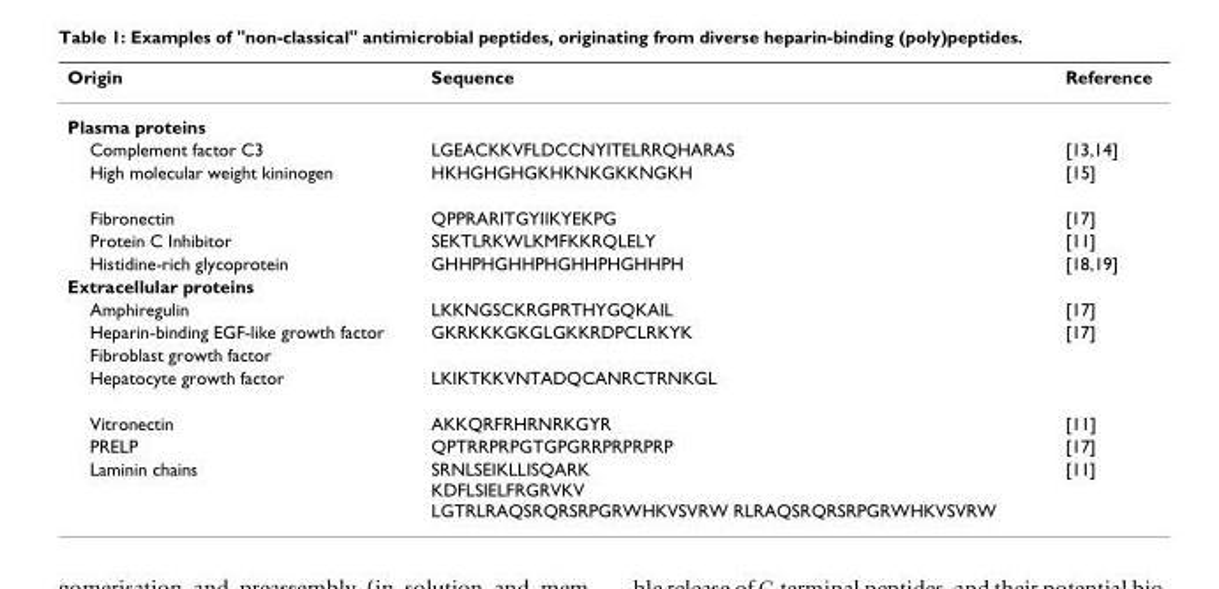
<table><thead><tr><td>Origin</td><td>Sequence</td><td>Reference</td></tr></thead><tbody><tr><td colspan="3">Plasma proteins</td></tr><tr><td>Complement factor C3</td><td>LGEACKKVFLDCCNYITELRRQHARAS</td><td>[13,14]</td></tr><tr><td>High molecular weight kininogen</td><td>HKHGHGHGKHKNKGKKNGKH</td><td>[15]</td></tr><tr><td>Fibronectin</td><td>QPPRARITGYIIKYEKPG</td><td>[17]</td></tr><tr><td>Protein C Inhibitor</td><td>SEKTLRKWLKMFKKRQLELY</td><td>[11]</td></tr><tr><td>Histidine-rich glycoprotein</td><td>GHHPHGHHPHGHHPHGHHPH</td><td>[18,19]</td></tr><tr><td colspan="3">Extracellular proteins</td></tr><tr><td>Amphiregulin</td><td>LKKNGSCKRGPRTHYGQKAIL</td><td>[17]</td></tr><tr><td>Heparin-binding EGF-like growth factor</td><td>GKRKKKGKGLGKKRDPCLRKYK</td><td>[17]</td></tr><tr><td colspan="3">Fibroblast growth factor</td></tr><tr><td>Hepatocyte growth factor</td><td>LKIKTKKVNTADQCANRCTRNKGL</td><td></td></tr><tr><td>Vitronectin</td><td>AKKQRFRHRNRKGYR</td><td>[11]</td></tr><tr><td>PRELP</td><td>QPTRRPRPGTGPGRRPRPRPRP</td><td>[17]</td></tr><tr><td>Laminin chains</td><td>SRNLSEIKLLISQARK KDFLSIELFRGRVKV LGTRLRAQSRQRSRPGRWHKVSVRW RLRAQSRQRSRPGRWHKVSVRW</td><td>[11]</td></tr></tbody></table>